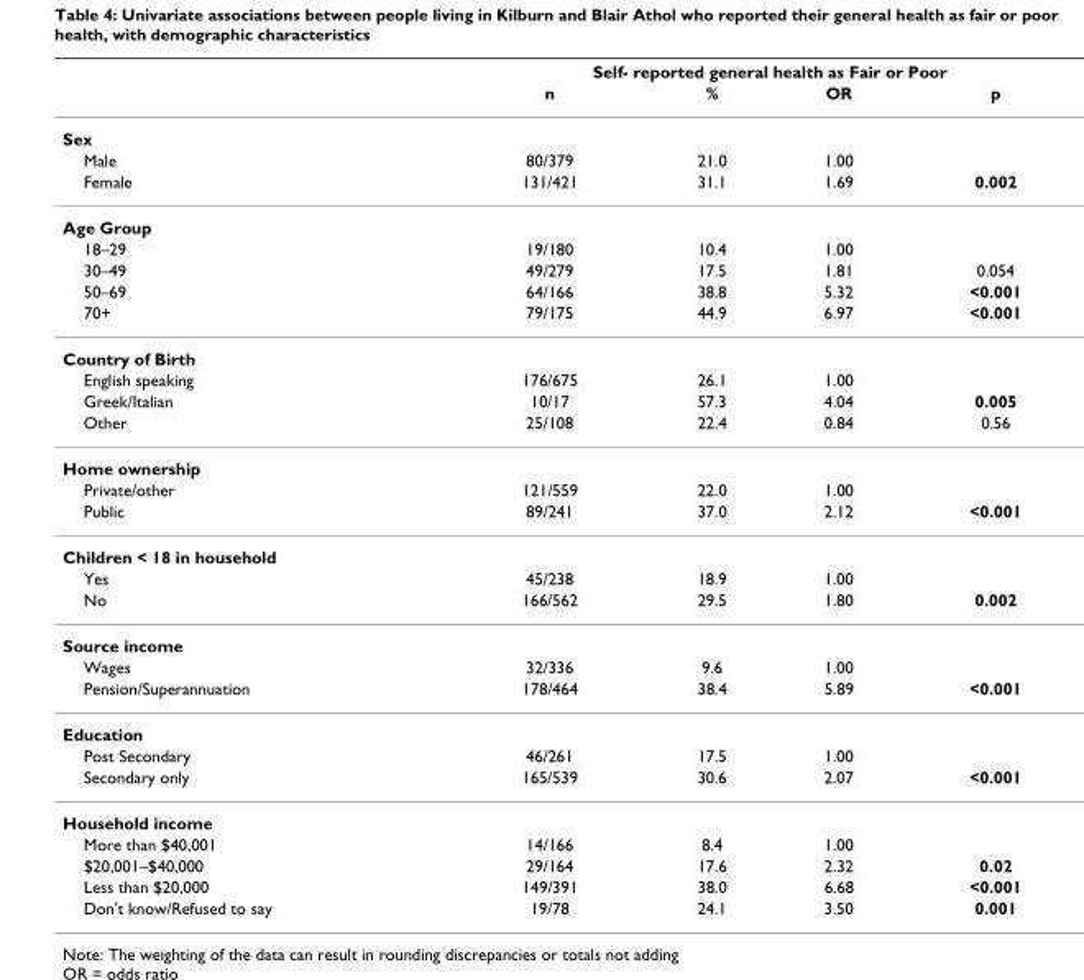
<table><thead><tr><td rowspan="2"></td><td colspan="4">Self- reported general health as Fair or Poor</td></tr><tr><td>n</td><td>%</td><td>OR</td><td>p</td></tr></thead><tbody><tr><td colspan="5">Sex</td></tr><tr><td>Male</td><td>80/379</td><td>21.0</td><td>1.00</td><td></td></tr><tr><td>Female</td><td>131/421</td><td>31.1</td><td>1.69</td><td>0.002</td></tr><tr><td colspan="5">Age Group</td></tr><tr><td>18–29</td><td>19/180</td><td>10.4</td><td>1.00</td><td></td></tr><tr><td>30–49</td><td>49/279</td><td>17.5</td><td>1.81</td><td>0.054</td></tr><tr><td>50–69</td><td>64/166</td><td>38.8</td><td>5.32</td><td>&lt;0.001</td></tr><tr><td>70+</td><td>79/175</td><td>44.9</td><td>6.97</td><td>&lt;0.001</td></tr><tr><td colspan="5">Country of Birth</td></tr><tr><td>English speaking</td><td>176/675</td><td>26.1</td><td>1.00</td><td></td></tr><tr><td>Greek/Italian</td><td>10/17</td><td>57.3</td><td>4.04</td><td>0.005</td></tr><tr><td>Other</td><td>25/108</td><td>22.4</td><td>0.84</td><td>0.56</td></tr><tr><td colspan="5">Home ownership</td></tr><tr><td>Private/other</td><td>121/559</td><td>22.0</td><td>1.00</td><td></td></tr><tr><td>Public</td><td>89/241</td><td>37.0</td><td>2.12</td><td>&lt;0.001</td></tr><tr><td colspan="5">Children &lt; 18 in household</td></tr><tr><td>Yes</td><td>45/238</td><td>18.9</td><td>1.00</td><td></td></tr><tr><td>No</td><td>166/562</td><td>29.5</td><td>1.80</td><td>0.002</td></tr><tr><td colspan="5">Source income</td></tr><tr><td>Wages</td><td>32/336</td><td>9.6</td><td>1.00</td><td></td></tr><tr><td>Pension/Superannuation</td><td>178/464</td><td>38.4</td><td>5.89</td><td>&lt;0.001</td></tr><tr><td colspan="5">Education</td></tr><tr><td>Post Secondary</td><td>46/261</td><td>17.5</td><td>1.00</td><td></td></tr><tr><td>Secondary only</td><td>165/539</td><td>30.6</td><td>2.07</td><td>&lt;0.001</td></tr><tr><td colspan="5">Household income</td></tr><tr><td>More than $40,001</td><td>14/166</td><td>8.4</td><td>1.00</td><td></td></tr><tr><td>$20,001–$40,000</td><td>29/164</td><td>17.6</td><td>2.32</td><td>0.02</td></tr><tr><td>Less than $20,000</td><td>149/391</td><td>38.0</td><td>6.68</td><td>&lt;0.001</td></tr><tr><td>Don&#x27;t know/Refused to say</td><td>19/78</td><td>24.1</td><td>3.50</td><td>0.001</td></tr></tbody></table>